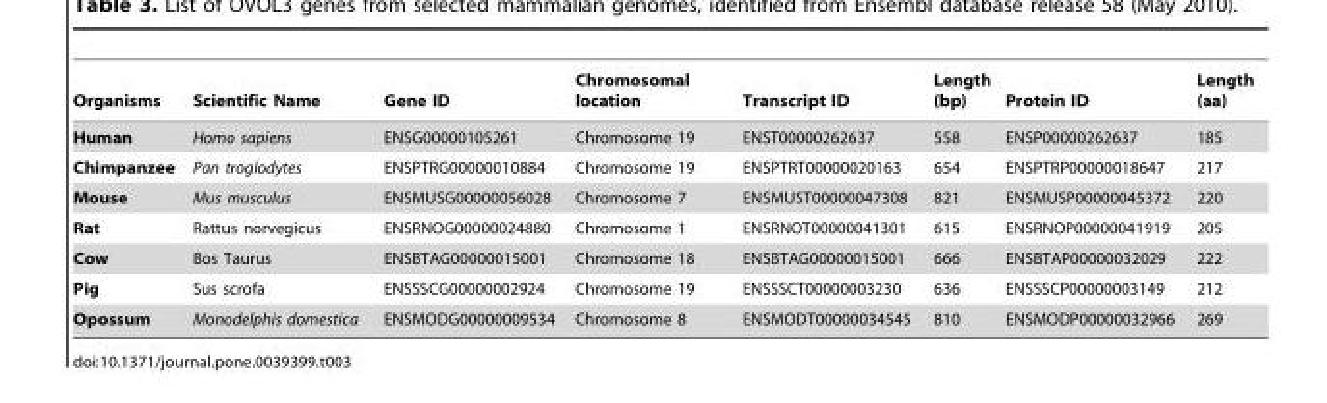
<table><thead><tr><td>Organisms</td><td>Scientific Name</td><td>Gene ID</td><td>Chromosomal location</td><td>Transcript ID</td><td>Length (bp)</td><td>Protein ID</td><td>Length (aa)</td></tr></thead><tbody><tr><td>Human</td><td>Homo sapiens</td><td>ENSG00000105261</td><td>Chromosome 19</td><td>ENST00000262637</td><td>558</td><td>ENSP00000262637</td><td>185</td></tr><tr><td>Chimpanzee</td><td>Pan troglodytes</td><td>ENSPTRG00000010884</td><td>Chromosome 19</td><td>ENSPTRT00000020163</td><td>654</td><td>ENSPTRP00000018647</td><td>217</td></tr><tr><td>Mouse</td><td>Mus musculus</td><td>ENSMUSG00000056028</td><td>Chromosome 7</td><td>ENSMUST00000047308</td><td>821</td><td>ENSMUSP00000045372</td><td>220</td></tr><tr><td>Rat</td><td>Rattus norvegicus</td><td>ENSRNOG00000024880</td><td>Chromosome 1</td><td>ENSRNOT00000041301</td><td>615</td><td>ENSRNOP00000041919</td><td>205</td></tr><tr><td>Cow</td><td>Bos Taurus</td><td>ENSBTAG00000015001</td><td>Chromosome 18</td><td>ENSBTAG00000015001</td><td>666</td><td>ENSBTAP00000032029</td><td>222</td></tr><tr><td>Pig</td><td>Sus scrofa</td><td>ENSSSCG00000002924</td><td>Chromosome 19</td><td>ENSSSCT00000003230</td><td>636</td><td>ENSSSCP00000003149</td><td>212</td></tr><tr><td>Opossum</td><td>Monodelphis domestica</td><td>ENSMODG00000009534</td><td>Chromosome 8</td><td>ENSMODT00000034545</td><td>810</td><td>ENSMODP00000032966</td><td>269</td></tr></tbody></table>